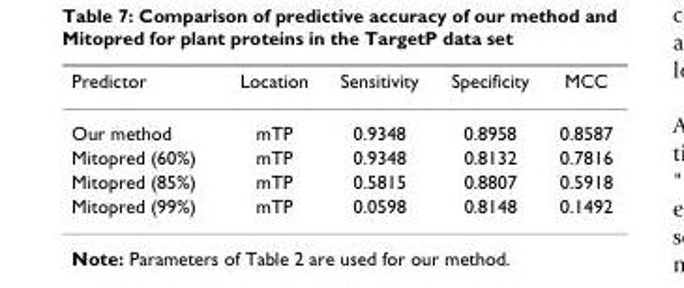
<table><thead><tr><td>Predictor</td><td>Location</td><td>Sensitivity</td><td>Specificity</td><td>MCC</td></tr></thead><tbody><tr><td>Our method</td><td>mTP</td><td>0.9348</td><td>0.8958</td><td>0.8587</td></tr><tr><td>Mitopred (60%)</td><td>mTP</td><td>0.9348</td><td>0.8132</td><td>0.7816</td></tr><tr><td>Mitopred (85%)</td><td>mTP</td><td>0.5815</td><td>0.8807</td><td>0.5918</td></tr><tr><td>Mitopred (99%)</td><td>mTP</td><td>0.0598</td><td>0.8148</td><td>0.1492</td></tr></tbody></table>